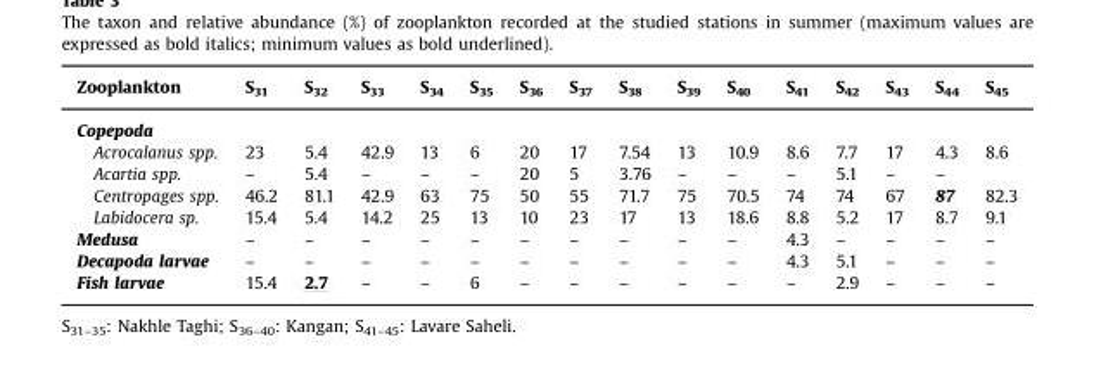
<table><thead><tr><td>Zooplankton</td><td>S<sub>31</sub></td><td>S<sub>32</sub></td><td>S<sub>33</sub></td><td>S<sub>34</sub></td><td>S<sub>35</sub></td><td>S<sub>36</sub></td><td>S<sub>37</sub></td><td>S<sub>38</sub></td><td>S<sub>39</sub></td><td>S<sub>40</sub></td><td>S<sub>41</sub></td><td>S<sub>42</sub></td><td>S<sub>43</sub></td><td>S<sub>44</sub></td><td>S<sub>45</sub></td></tr></thead><tbody><tr><td colspan="16">Copepoda</td></tr><tr><td>Acrocalanus spp.</td><td>23</td><td>5.4</td><td>42.9</td><td>13</td><td>6</td><td>20</td><td>17</td><td>7.54</td><td>13</td><td>10.9</td><td>8.6</td><td>7.7</td><td>17</td><td>4.3</td><td>8.6</td></tr><tr><td>Acartia spp.</td><td>–</td><td>5.4</td><td>–</td><td>–</td><td>–</td><td>20</td><td>5</td><td>3.76</td><td>–</td><td>–</td><td>–</td><td>5.1</td><td>–</td><td>–</td><td></td></tr><tr><td>Centropages spp.</td><td>46.2</td><td>81.1</td><td>42.9</td><td>63</td><td>75</td><td>50</td><td>55</td><td>71.7</td><td>75</td><td>70.5</td><td>74</td><td>74</td><td>67</td><td>87</td><td>82.3</td></tr><tr><td>Labidocera sp.</td><td>15.4</td><td>5.4</td><td>14.2</td><td>25</td><td>13</td><td>10</td><td>23</td><td>17</td><td>13</td><td>18.6</td><td>8.8</td><td>5.2</td><td>17</td><td>8.7</td><td>9.1</td></tr><tr><td>Medusa</td><td>–</td><td>–</td><td>–</td><td>–</td><td>–</td><td>–</td><td>–</td><td>–</td><td>–</td><td>–</td><td>4.3</td><td>–</td><td>–</td><td>–</td><td>–</td></tr><tr><td>Decapoda larvae</td><td>–</td><td>–</td><td>–</td><td>–</td><td>–</td><td>–</td><td>–</td><td>–</td><td>–</td><td>–</td><td>4.3</td><td>5.1</td><td>–</td><td>–</td><td>–</td></tr><tr><td>Fish larvae</td><td>15.4</td><td>2.7</td><td>–</td><td>–</td><td>6</td><td>–</td><td>–</td><td>–</td><td>–</td><td>–</td><td>–</td><td>2.9</td><td>–</td><td>–</td><td>–</td></tr></tbody></table>